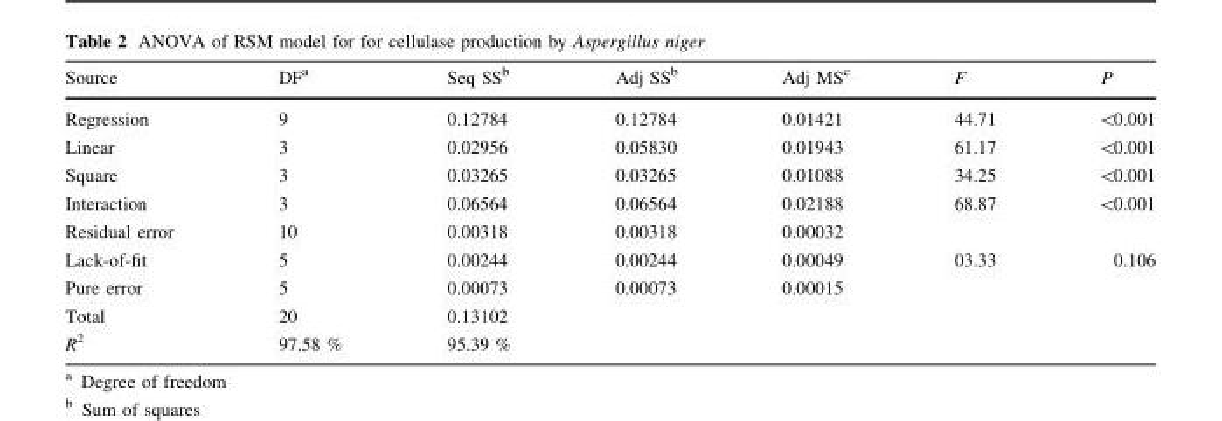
<table><thead><tr><td>Source</td><td>DF<sup>a</sup></td><td>Seq SS<sup>b</sup></td><td>Adj SS<sup>b</sup></td><td>Adj MS<sup>c</sup></td><td>F</td><td>P</td></tr></thead><tbody><tr><td>Regression</td><td>9</td><td>0.12784</td><td>0.12784</td><td>0.01421</td><td>44.71</td><td>&lt;0.001</td></tr><tr><td>Linear</td><td>3</td><td>0.02956</td><td>0.05830</td><td>0.01943</td><td>61.17</td><td>&lt;0.001</td></tr><tr><td>Square</td><td>3</td><td>0.03265</td><td>0.03265</td><td>0.01088</td><td>34.25</td><td>&lt;0.001</td></tr><tr><td>Interaction</td><td>3</td><td>0.06564</td><td>0.06564</td><td>0.02188</td><td>68.87</td><td>&lt;0.001</td></tr><tr><td>Residual error</td><td>10</td><td>0.00318</td><td>0.00318</td><td>0.00032</td><td></td><td></td></tr><tr><td>Lack-of-fit</td><td>5</td><td>0.00244</td><td>0.00244</td><td>0.00049</td><td>03.33</td><td>0.106</td></tr><tr><td>Pure error</td><td>5</td><td>0.00073</td><td>0.00073</td><td>0.00015</td><td></td><td></td></tr><tr><td>Total</td><td>20</td><td>0.13102</td><td></td><td></td><td></td><td></td></tr><tr><td>R<sup>2</sup></td><td>97.58 %</td><td>95.39 %</td><td></td><td></td><td></td><td></td></tr></tbody></table>